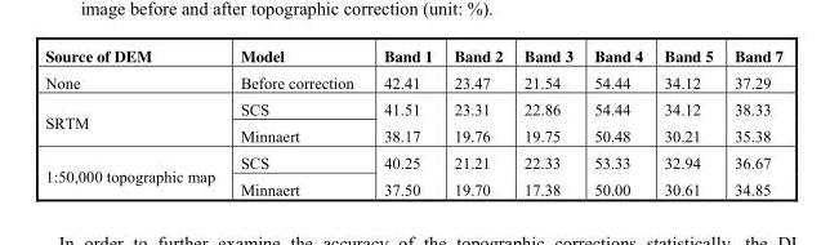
<table><thead><tr><td>Source of DEM</td><td>Model</td><td>Band 1</td><td>Band 2</td><td>Band 3</td><td>Band 4</td><td>Band 5</td><td>Band 7</td></tr></thead><tbody><tr><td>None</td><td>Before correction</td><td>42.41</td><td>23.47</td><td>21.54</td><td>54.44</td><td>34.12</td><td>37.29</td></tr><tr><td rowspan="2">SRTM</td><td>SCS</td><td>41.51</td><td>23.31</td><td>22.86</td><td>54.44</td><td>34.12</td><td>38.33</td></tr><tr><td>Minnaert</td><td>38.17</td><td>19.76</td><td>19.75</td><td>50.48</td><td>30.21</td><td>35.38</td></tr><tr><td rowspan="2">1:50,000 topographic map</td><td>SCS</td><td>40.25</td><td>21.21</td><td>22.33</td><td>53.33</td><td>32.94</td><td>36.67</td></tr><tr><td>Minnaert</td><td>37.50</td><td>19.70</td><td>17.38</td><td>50.00</td><td>30.61</td><td>34.85</td></tr></tbody></table>